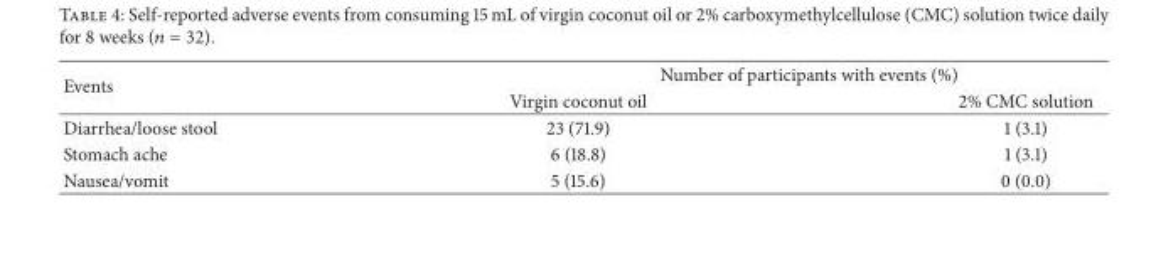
<table><thead><tr><td rowspan="2">Events</td><td colspan="2">Number of participants with events (%)</td></tr><tr><td>Virgin coconut oil</td><td>2% CMC solution</td></tr></thead><tbody><tr><td>Diarrhea/loose stool</td><td>23 (71.9)</td><td>1 (3.1)</td></tr><tr><td>Stomach ache</td><td>6 (18.8)</td><td>1 (3.1)</td></tr><tr><td>Nausea/vomit</td><td>5 (15.6)</td><td>0 (0.0)</td></tr></tbody></table>